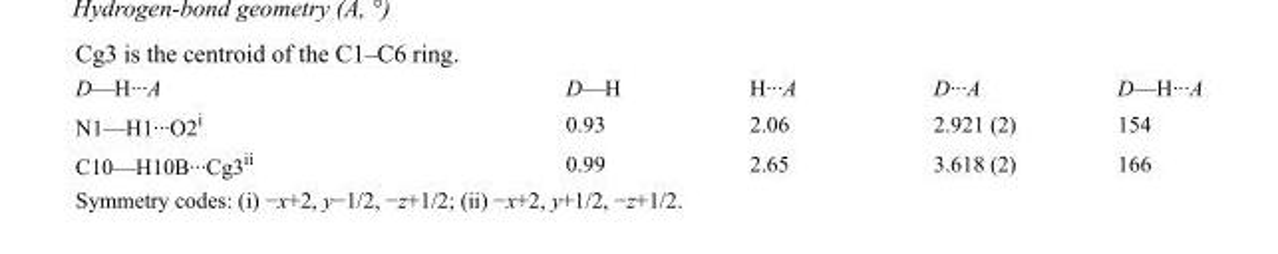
<table><tbody><tr><td>D—H···A</td><td>D—H</td><td>H···A</td><td>D···A</td><td>D—H···A</td></tr><tr><td>N1—H1···O2<sup>i</sup></td><td>0.93</td><td>2.06</td><td>2.921 (2)</td><td>154</td></tr><tr><td>C10—H10B···Cg3<sup>ii</sup></td><td>0.99</td><td>2.65</td><td>3.618 (2)</td><td>166</td></tr></tbody></table>